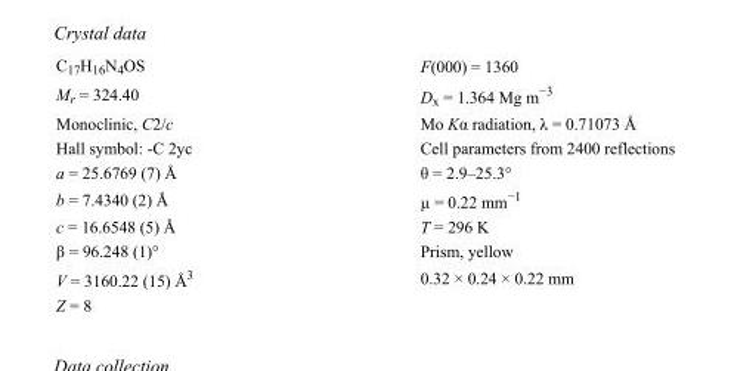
<table><tbody><tr><td>C<sub>17</sub>H<sub>16</sub>N<sub>4</sub>OS</td><td>F(000) = 1360</td></tr><tr><td>M<sub>r</sub> = 324.40</td><td>D<sub>x</sub> = 1.364 Mg m<sup>−3</sup></td></tr><tr><td>Monoclinic, C2/c</td><td>Mo Kα radiation, λ = 0.71073 Å</td></tr><tr><td>Hall symbol: -C 2yc</td><td>Cell parameters from 2400 reflections</td></tr><tr><td>a = 25.6769 (7) Å</td><td>θ = 2.9–25.3°</td></tr><tr><td>b = 7.4340 (2) Å</td><td>µ = 0.22 mm<sup>−1</sup></td></tr><tr><td>c = 16.6548 (5) Å</td><td>T = 296 K</td></tr><tr><td>β = 96.248 (1)°</td><td>Prism, yellow</td></tr><tr><td>V = 3160.22 (15) Å<sup>3</sup></td><td>0.32 × 0.24 × 0.22 mm</td></tr><tr><td>Z = 8</td><td></td></tr></tbody></table>